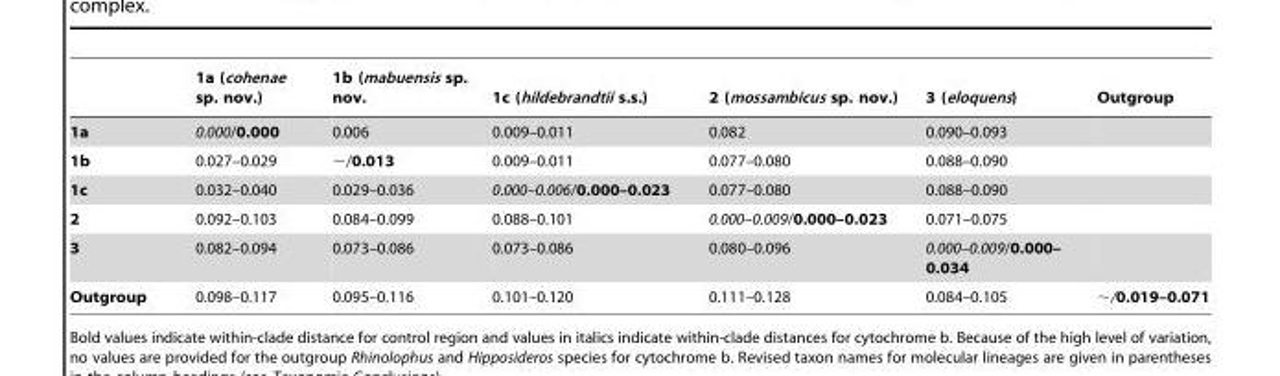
<table><thead><tr><td></td><td>1a (cohenae sp. nov.)</td><td>1b (mabuensis sp. nov.</td><td>1c (hildebrandtii s.s.)</td><td>2 (mossambicus sp. nov.)</td><td>3 (eloquens)</td><td>Outgroup</td></tr></thead><tbody><tr><td>1a</td><td>0.000/0.000</td><td>0.006</td><td>0.009–0.011</td><td>0.082</td><td>0.090–0.093</td><td></td></tr><tr><td>1b</td><td>0.027–0.029</td><td>∼/0.013</td><td>0.009–0.011</td><td>0.077–0.080</td><td>0.088–0.090</td><td></td></tr><tr><td>1c</td><td>0.032–0.040</td><td>0.029–0.036</td><td>0.000–0.006/0.000–0.023</td><td>0.077–0.080</td><td>0.088–0.090</td><td></td></tr><tr><td>2</td><td>0.092–0.103</td><td>0.084–0.099</td><td>0.088–0.101</td><td>0.000–0.009/0.000–0.023</td><td>0.071–0.075</td><td></td></tr><tr><td>3</td><td>0.082–0.094</td><td>0.073–0.086</td><td>0.073–0.086</td><td>0.080–0.096</td><td>0.000–0.009/0.000– 0.034</td><td></td></tr><tr><td>Outgroup</td><td>0.098–0.117</td><td>0.095–0.116</td><td>0.101–0.120</td><td>0.111–0.128</td><td>0.084–0.105</td><td>∼/0.019–0.071</td></tr></tbody></table>